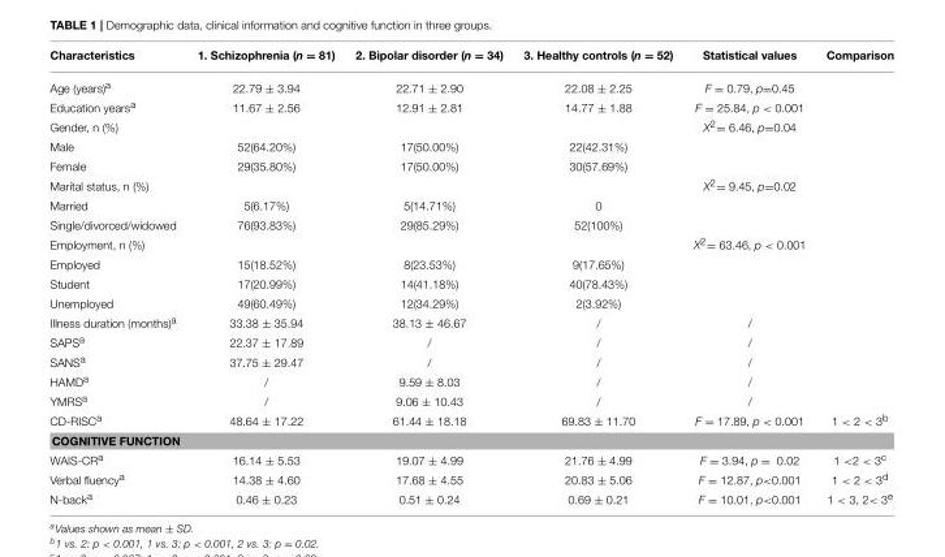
<table><thead><tr><td>Characteristics</td><td>1. Schizophrenia (n = 81)</td><td>2. Bipolar disorder (n = 34)</td><td>3. Healthy controls (n = 52)</td><td>Statistical values</td><td>Comparison</td></tr></thead><tbody><tr><td>Age (years)<sup>a</sup></td><td>22.79 ± 3.94</td><td>22.71 ± 2.90</td><td>22.08 ± 2.25</td><td>F = 0.79, p=0.45</td><td></td></tr><tr><td>Education years<sup>a</sup></td><td>11.67 ± 2.56</td><td>12.91 ± 2.81</td><td>14.77 ± 1.88</td><td>F = 25.84, p &lt; 0.001</td><td></td></tr><tr><td>Gender, n (%)</td><td></td><td></td><td></td><td>X<sup>2</sup>= 6.46, p=0.04</td><td></td></tr><tr><td>Male</td><td>52(64.20%)</td><td>17(50.00%)</td><td>22(42.31%)</td><td></td><td></td></tr><tr><td>Female</td><td>29(35.80%)</td><td>17(50.00%)</td><td>30(57.69%)</td><td></td><td></td></tr><tr><td>Marital status, n (%)</td><td></td><td></td><td></td><td>X<sup>2</sup>= 9.45, p=0.02</td><td></td></tr><tr><td>Married</td><td>5(6.17%)</td><td>5(14.71%)</td><td>0</td><td></td><td></td></tr><tr><td>Single/divorced/widowed</td><td>76(93.83%)</td><td>29(85.29%)</td><td>52(100%)</td><td></td><td></td></tr><tr><td>Employment, n (%)</td><td></td><td></td><td></td><td>X<sup>2</sup>= 63.46, p &lt; 0.001</td><td></td></tr><tr><td>Employed</td><td>15(18.52%)</td><td>8(23.53%)</td><td>9(17.65%)</td><td></td><td></td></tr><tr><td>Student</td><td>17(20.99%)</td><td>14(41.18%)</td><td>40(78.43%)</td><td></td><td></td></tr><tr><td>Unemployed</td><td>49(60.49%)</td><td>12(34.29%)</td><td>2(3.92%)</td><td></td><td></td></tr><tr><td>Illness duration (months)<sup>a</sup></td><td>33.38 ± 35.94</td><td>38.13 ± 46.67</td><td>/</td><td>/</td><td></td></tr><tr><td>SAPS<sup>a</sup></td><td>22.37 ± 17.89</td><td>/</td><td>/</td><td>/</td><td></td></tr><tr><td>SANS<sup>a</sup></td><td>37.75 ± 29.47</td><td>/</td><td>/</td><td>/</td><td></td></tr><tr><td>HAMD<sup>a</sup></td><td>/</td><td>9.59 ± 8.03</td><td>/</td><td>/</td><td></td></tr><tr><td>YMRS<sup>a</sup></td><td>/</td><td>9.06 ± 10.43</td><td>/</td><td>/</td><td></td></tr><tr><td>CD-RISC<sup>a</sup></td><td>48.64 ± 17.22</td><td>61.44 ± 18.18</td><td>69.83 ± 11.70</td><td>F = 17.89, p &lt; 0.001</td><td>1 &lt; 2 &lt; 3<sup>b</sup></td></tr><tr><td colspan="6">COGNITIVE FUNCTION</td></tr><tr><td>WAIS-CR<sup>a</sup></td><td>16.14 ± 5.53</td><td>19.07 ± 4.99</td><td>21.76 ± 4.99</td><td>F = 3.94, p = 0.02</td><td>1 &lt;2 &lt; 3<sup>c</sup></td></tr><tr><td>Verbal fluency<sup>a</sup></td><td>14.38 ± 4.60</td><td>17.68 ± 4.55</td><td>20.83 ± 5.06</td><td>F = 12.87, p&lt;0.001</td><td>1 &lt; 2 &lt; 3<sup>d</sup></td></tr><tr><td>N-back<sup>a</sup></td><td>0.46 ± 0.23</td><td>0.51 ± 0.24</td><td>0.69 ± 0.21</td><td>F = 10.01, p&lt;0.001</td><td>1 &lt; 3, 2&lt; 3<sup>e</sup></td></tr></tbody></table>